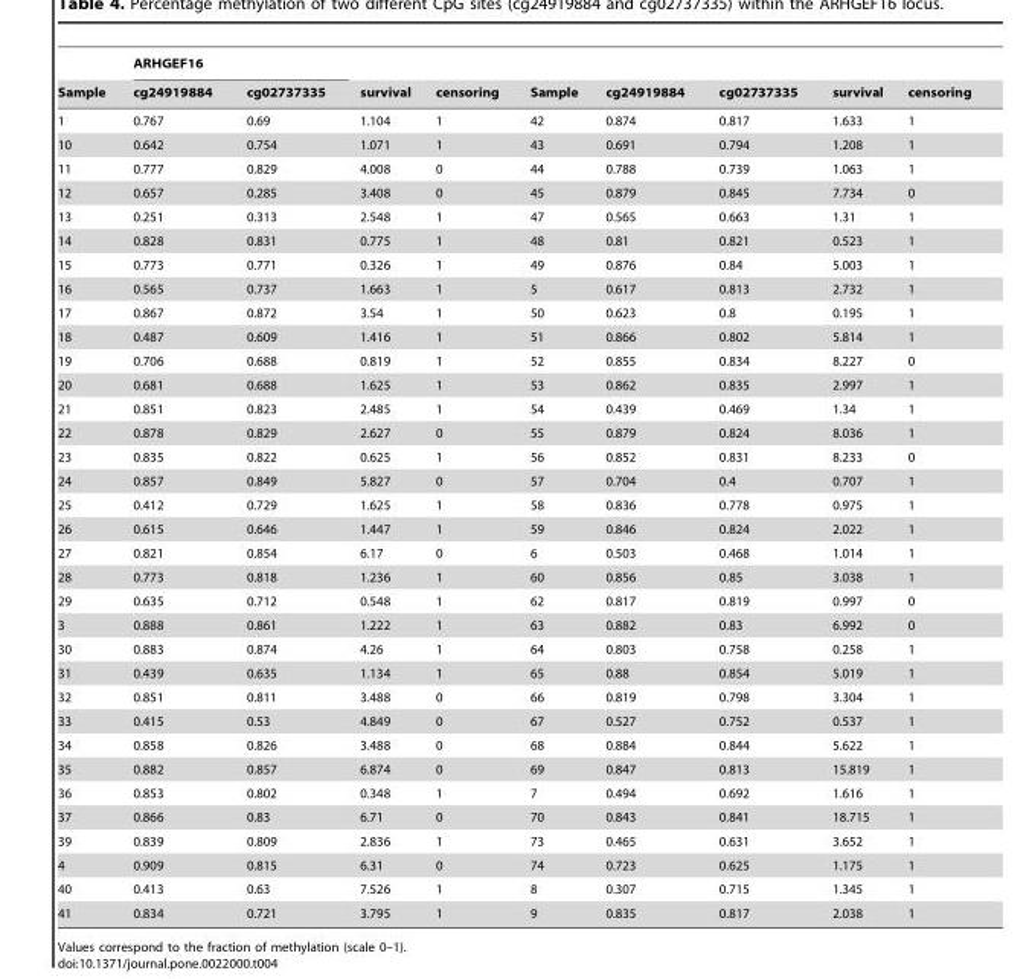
<table><thead><tr><td rowspan="2">Sample</td><td colspan="2">ARHGEF16</td><td rowspan="2">survival</td><td rowspan="2">censoring</td><td rowspan="2">Sample</td><td rowspan="2">cg24919884</td><td rowspan="2">cg02737335</td><td rowspan="2">survival</td><td rowspan="2">censoring</td></tr><tr><td>cg24919884</td><td>cg02737335</td></tr></thead><tbody><tr><td>1</td><td>0.767</td><td>0.69</td><td>1.104</td><td>1</td><td>42</td><td>0.874</td><td>0.817</td><td>1.633</td><td>1</td></tr><tr><td>10</td><td>0.642</td><td>0.754</td><td>1.071</td><td>1</td><td>43</td><td>0.691</td><td>0.794</td><td>1.208</td><td>1</td></tr><tr><td>11</td><td>0.777</td><td>0.829</td><td>4.008</td><td>0</td><td>44</td><td>0.788</td><td>0.739</td><td>1.063</td><td>1</td></tr><tr><td>12</td><td>0.657</td><td>0.285</td><td>3.408</td><td>0</td><td>45</td><td>0.879</td><td>0.845</td><td>7.734</td><td>0</td></tr><tr><td>13</td><td>0.251</td><td>0.313</td><td>2.548</td><td>1</td><td>47</td><td>0.565</td><td>0.663</td><td>1.31</td><td>1</td></tr><tr><td>14</td><td>0.828</td><td>0.831</td><td>0.775</td><td>1</td><td>48</td><td>0.81</td><td>0.821</td><td>0.523</td><td>1</td></tr><tr><td>15</td><td>0.773</td><td>0.771</td><td>0.326</td><td>1</td><td>49</td><td>0.876</td><td>0.84</td><td>5.003</td><td>1</td></tr><tr><td>16</td><td>0.565</td><td>0.737</td><td>1.663</td><td>1</td><td>5</td><td>0.617</td><td>0.813</td><td>2.732</td><td>1</td></tr><tr><td>17</td><td>0.867</td><td>0.872</td><td>3.54</td><td>1</td><td>50</td><td>0.623</td><td>0.8</td><td>0.195</td><td>1</td></tr><tr><td>18</td><td>0.487</td><td>0.609</td><td>1.416</td><td>1</td><td>51</td><td>0.866</td><td>0.802</td><td>5.814</td><td>1</td></tr><tr><td>19</td><td>0.706</td><td>0.688</td><td>0.819</td><td>1</td><td>52</td><td>0.855</td><td>0.834</td><td>8.227</td><td>0</td></tr><tr><td>20</td><td>0.681</td><td>0.688</td><td>1.625</td><td>1</td><td>53</td><td>0.862</td><td>0.835</td><td>2.997</td><td>1</td></tr><tr><td>21</td><td>0.851</td><td>0.823</td><td>2.485</td><td>1</td><td>54</td><td>0.439</td><td>0.469</td><td>1.34</td><td>1</td></tr><tr><td>22</td><td>0.878</td><td>0.829</td><td>2.627</td><td>0</td><td>55</td><td>0.879</td><td>0.824</td><td>8.036</td><td>1</td></tr><tr><td>23</td><td>0.835</td><td>0.822</td><td>0.625</td><td>1</td><td>56</td><td>0.852</td><td>0.831</td><td>8.233</td><td>0</td></tr><tr><td>24</td><td>0.857</td><td>0.849</td><td>5.827</td><td>0</td><td>57</td><td>0.704</td><td>0.4</td><td>0.707</td><td>1</td></tr><tr><td>25</td><td>0.412</td><td>0.729</td><td>1.625</td><td>1</td><td>58</td><td>0.836</td><td>0.778</td><td>0.975</td><td>1</td></tr><tr><td>26</td><td>0.615</td><td>0.646</td><td>1.447</td><td>1</td><td>59</td><td>0.846</td><td>0.824</td><td>2.022</td><td>1</td></tr><tr><td>27</td><td>0.821</td><td>0.854</td><td>6.17</td><td>0</td><td>6</td><td>0.503</td><td>0.468</td><td>1.014</td><td>1</td></tr><tr><td>28</td><td>0.773</td><td>0.818</td><td>1.236</td><td>1</td><td>60</td><td>0.856</td><td>0.85</td><td>3.038</td><td>1</td></tr><tr><td>29</td><td>0.635</td><td>0.712</td><td>0.548</td><td>1</td><td>62</td><td>0.817</td><td>0.819</td><td>0.997</td><td>0</td></tr><tr><td>3</td><td>0.888</td><td>0.861</td><td>1.222</td><td>1</td><td>63</td><td>0.882</td><td>0.83</td><td>6.992</td><td>0</td></tr><tr><td>30</td><td>0.883</td><td>0.874</td><td>4.26</td><td>1</td><td>64</td><td>0.803</td><td>0.758</td><td>0.258</td><td>1</td></tr><tr><td>31</td><td>0.439</td><td>0.635</td><td>1.134</td><td>1</td><td>65</td><td>0.88</td><td>0.854</td><td>5.019</td><td>1</td></tr><tr><td>32</td><td>0.851</td><td>0.811</td><td>3.488</td><td>0</td><td>66</td><td>0.819</td><td>0.798</td><td>3.304</td><td>1</td></tr><tr><td>33</td><td>0.415</td><td>0.53</td><td>4.849</td><td>0</td><td>67</td><td>0.527</td><td>0.752</td><td>0.537</td><td>1</td></tr><tr><td>34</td><td>0.858</td><td>0.826</td><td>3.488</td><td>0</td><td>68</td><td>0.884</td><td>0.844</td><td>5.622</td><td>1</td></tr><tr><td>35</td><td>0.882</td><td>0.857</td><td>6.874</td><td>0</td><td>69</td><td>0.847</td><td>0.813</td><td>15.819</td><td>1</td></tr><tr><td>36</td><td>0.853</td><td>0.802</td><td>0.348</td><td>1</td><td>7</td><td>0.494</td><td>0.692</td><td>1.616</td><td>1</td></tr><tr><td>37</td><td>0.866</td><td>0.83</td><td>6.71</td><td>0</td><td>70</td><td>0.843</td><td>0.841</td><td>18.715</td><td>1</td></tr><tr><td>39</td><td>0.839</td><td>0.809</td><td>2.836</td><td>1</td><td>73</td><td>0.465</td><td>0.631</td><td>3.652</td><td>1</td></tr><tr><td>4</td><td>0.909</td><td>0.815</td><td>6.31</td><td>0</td><td>74</td><td>0.723</td><td>0.625</td><td>1.175</td><td>1</td></tr><tr><td>40</td><td>0.413</td><td>0.63</td><td>7.526</td><td>1</td><td>8</td><td>0.307</td><td>0.715</td><td>1.345</td><td>1</td></tr><tr><td>41</td><td>0.834</td><td>0.721</td><td>3.795</td><td>1</td><td>9</td><td>0.835</td><td>0.817</td><td>2.038</td><td>1</td></tr></tbody></table>